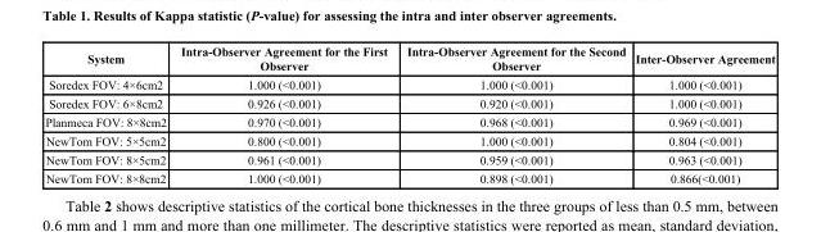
<table><thead><tr><td>System</td><td>Intra-Observer Agreement for the First Observer</td><td>Intra-Observer Agreement for the Second Observer</td><td>Inter-Observer Agreement</td></tr></thead><tbody><tr><td>Soredex FOV: 4×6cm2</td><td>1.000 (&lt;0.001)</td><td>1.000 (&lt;0.001)</td><td>1.000 (&lt;0.001)</td></tr><tr><td>Soredex FOV: 6×8cm2</td><td>0.926 (&lt;0.001)</td><td>0.920 (&lt;0.001)</td><td>1.000 (&lt;0.001)</td></tr><tr><td>Planmeca FOV: 8×8cm2</td><td>0.970 (&lt;0.001)</td><td>0.968 (&lt;0.001)</td><td>0.969 (&lt;0.001)</td></tr><tr><td>NewTom FOV: 5×5cm2</td><td>0.800 (&lt;0.001)</td><td>1.000 (&lt;0.001)</td><td>0.804 (&lt;0.001)</td></tr><tr><td>NewTom FOV: 8×5cm2</td><td>0.961 (&lt;0.001)</td><td>0.959 (&lt;0.001)</td><td>0.963 (&lt;0.001)</td></tr><tr><td>NewTom FOV: 8×8cm2</td><td>1.000 (&lt;0.001)</td><td>0.898 (&lt;0.001)</td><td>0.866(&lt;0.001)</td></tr></tbody></table>